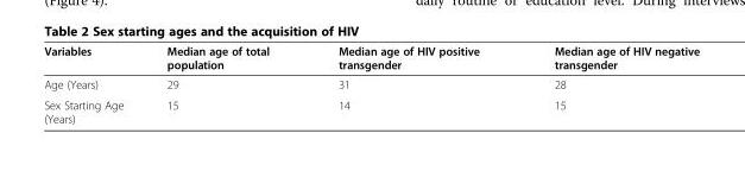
<table><thead><tr><td>Variables</td><td>Median age of total population</td><td>Median age of HIV positive transgender</td><td>Median age of HIV negative transgender</td></tr></thead><tbody><tr><td>Age (Years)</td><td>29</td><td>31</td><td>28</td></tr><tr><td>Sex Starting Age (Years)</td><td>15</td><td>14</td><td>15</td></tr></tbody></table>